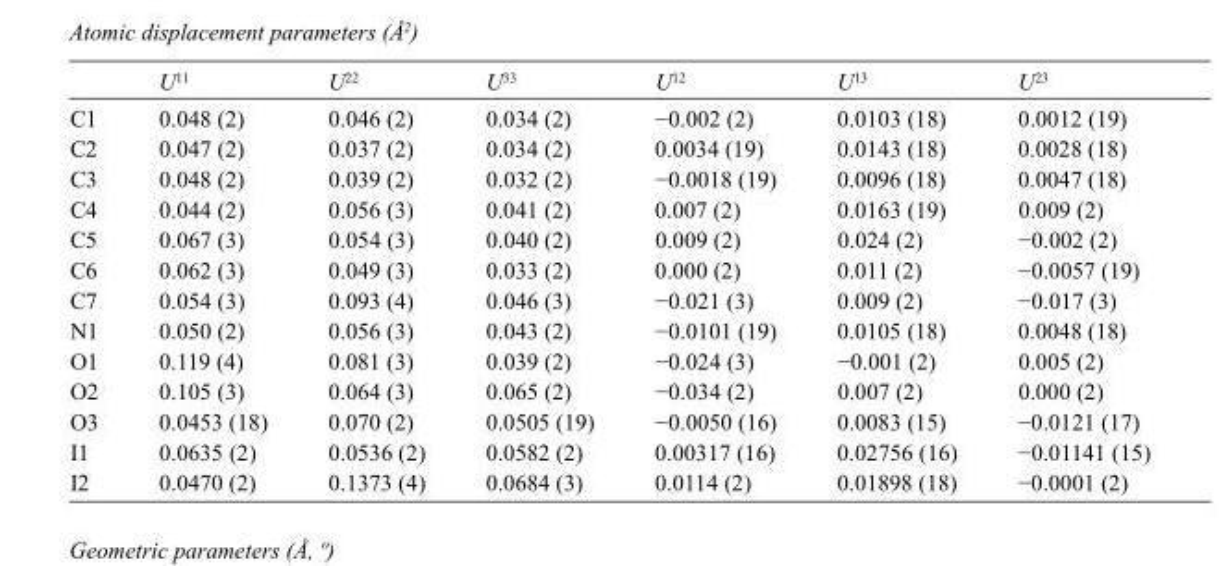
<table><thead><tr><td></td><td>U<sup>11</sup></td><td>U<sup>22</sup></td><td>U<sup>33</sup></td><td>U<sup>12</sup></td><td>U<sup>13</sup></td><td>U<sup>23</sup></td></tr></thead><tbody><tr><td>C1</td><td>0.048 (2)</td><td>0.046 (2)</td><td>0.034 (2)</td><td>−0.002 (2)</td><td>0.0103 (18)</td><td>0.0012 (19)</td></tr><tr><td>C2</td><td>0.047 (2)</td><td>0.037 (2)</td><td>0.034 (2)</td><td>0.0034 (19)</td><td>0.0143 (18)</td><td>0.0028 (18)</td></tr><tr><td>C3</td><td>0.048 (2)</td><td>0.039 (2)</td><td>0.032 (2)</td><td>−0.0018 (19)</td><td>0.0096 (18)</td><td>0.0047 (18)</td></tr><tr><td>C4</td><td>0.044 (2)</td><td>0.056 (3)</td><td>0.041 (2)</td><td>0.007 (2)</td><td>0.0163 (19)</td><td>0.009 (2)</td></tr><tr><td>C5</td><td>0.067 (3)</td><td>0.054 (3)</td><td>0.040 (2)</td><td>0.009 (2)</td><td>0.024 (2)</td><td>−0.002 (2)</td></tr><tr><td>C6</td><td>0.062 (3)</td><td>0.049 (3)</td><td>0.033 (2)</td><td>0.000 (2)</td><td>0.011 (2)</td><td>−0.0057 (19)</td></tr><tr><td>C7</td><td>0.054 (3)</td><td>0.093 (4)</td><td>0.046 (3)</td><td>−0.021 (3)</td><td>0.009 (2)</td><td>−0.017 (3)</td></tr><tr><td>N1</td><td>0.050 (2)</td><td>0.056 (3)</td><td>0.043 (2)</td><td>−0.0101 (19)</td><td>0.0105 (18)</td><td>0.0048 (18)</td></tr><tr><td>O1</td><td>0.119 (4)</td><td>0.081 (3)</td><td>0.039 (2)</td><td>−0.024 (3)</td><td>−0.001 (2)</td><td>0.005 (2)</td></tr><tr><td>O2</td><td>0.105 (3)</td><td>0.064 (3)</td><td>0.065 (2)</td><td>−0.034 (2)</td><td>0.007 (2)</td><td>0.000 (2)</td></tr><tr><td>O3</td><td>0.0453 (18)</td><td>0.070 (2)</td><td>0.0505 (19)</td><td>−0.0050 (16)</td><td>0.0083 (15)</td><td>−0.0121 (17)</td></tr><tr><td>I1</td><td>0.0635 (2)</td><td>0.0536 (2)</td><td>0.0582 (2)</td><td>0.00317 (16)</td><td>0.02756 (16)</td><td>−0.01141 (15)</td></tr><tr><td>I2</td><td>0.0470 (2)</td><td>0.1373 (4)</td><td>0.0684 (3)</td><td>0.0114 (2)</td><td>0.01898 (18)</td><td>−0.0001 (2)</td></tr></tbody></table>